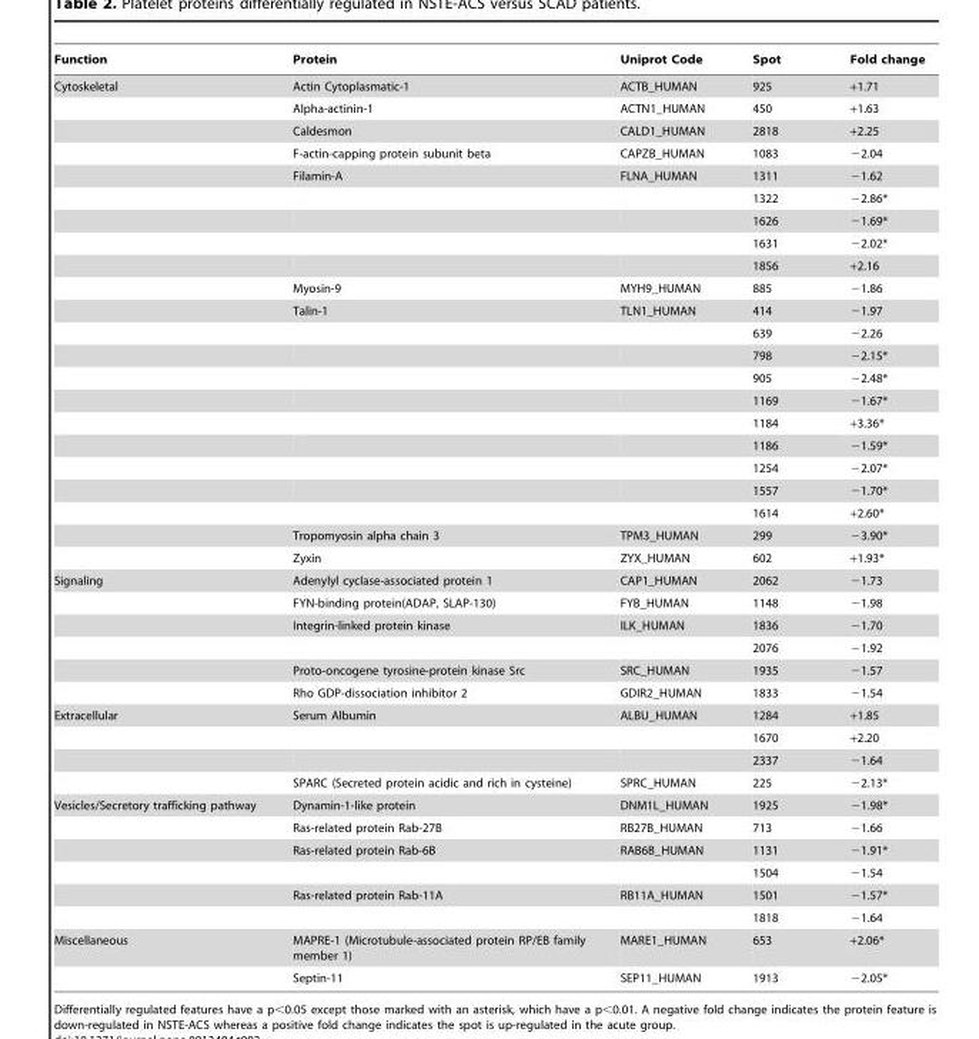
<table><thead><tr><td>Function</td><td>Protein</td><td>Uniprot Code</td><td>Spot</td><td>Fold change</td></tr></thead><tbody><tr><td rowspan="22">Cytoskeletal</td><td>Actin Cytoplasmatic-1</td><td>ACTB_HUMAN</td><td>925</td><td>+1.71</td></tr><tr><td>Alpha-actinin-1</td><td>ACTN1_HUMAN</td><td>450</td><td>+1.63</td></tr><tr><td>Caldesmon</td><td>CALD1_HUMAN</td><td>2818</td><td>+2.25</td></tr><tr><td>F-actin-capping protein subunit beta</td><td>CAPZB_HUMAN</td><td>1083</td><td>−2.04</td></tr><tr><td>Filamin-A</td><td>FLNA_HUMAN</td><td>1311</td><td>−1.62</td></tr><tr><td></td><td></td><td>1322</td><td>−2.86*</td></tr><tr><td></td><td></td><td>1626</td><td>−1.69*</td></tr><tr><td></td><td></td><td>1631</td><td>−2.02*</td></tr><tr><td></td><td></td><td>1856</td><td>+2.16</td></tr><tr><td>Myosin-9</td><td>MYH9_HUMAN</td><td>885</td><td>−1.86</td></tr><tr><td>Talin-1</td><td>TLN1_HUMAN</td><td>414</td><td>−1.97</td></tr><tr><td></td><td></td><td>639</td><td>−2.26</td></tr><tr><td></td><td></td><td>798</td><td>−2.15*</td></tr><tr><td></td><td></td><td>905</td><td>−2.48*</td></tr><tr><td></td><td></td><td>1169</td><td>−1.67*</td></tr><tr><td></td><td></td><td>1184</td><td>+3.36*</td></tr><tr><td></td><td></td><td>1186</td><td>−1.59*</td></tr><tr><td></td><td></td><td>1254</td><td>−2.07*</td></tr><tr><td></td><td></td><td>1557</td><td>−1.70*</td></tr><tr><td></td><td></td><td>1614</td><td>+2.60*</td></tr><tr><td>Tropomyosin alpha chain 3</td><td>TPM3_HUMAN</td><td>299</td><td>−3.90*</td></tr><tr><td>Zyxin</td><td>ZYX_HUMAN</td><td>602</td><td>+1.93*</td></tr><tr><td rowspan="6">Signaling</td><td>Adenylyl cyclase-associated protein 1</td><td>CAP1_HUMAN</td><td>2062</td><td>−1.73</td></tr><tr><td>FYN-binding protein(ADAP, SLAP-130)</td><td>FYB_HUMAN</td><td>1148</td><td>−1.98</td></tr><tr><td>Integrin-linked protein kinase</td><td>ILK_HUMAN</td><td>1836</td><td>−1.70</td></tr><tr><td></td><td></td><td>2076</td><td>−1.92</td></tr><tr><td>Proto-oncogene tyrosine-protein kinase Src</td><td>SRC_HUMAN</td><td>1935</td><td>−1.57</td></tr><tr><td>Rho GDP-dissociation inhibitor 2</td><td>GDIR2_HUMAN</td><td>1833</td><td>−1.54</td></tr><tr><td rowspan="4">Extracellular</td><td>Serum Albumin</td><td>ALBU_HUMAN</td><td>1284</td><td>+1.85</td></tr><tr><td></td><td></td><td>1670</td><td>+2.20</td></tr><tr><td></td><td></td><td>2337</td><td>−1.64</td></tr><tr><td>SPARC (Secreted protein acidic and rich in cysteine)</td><td>SPRC_HUMAN</td><td>225</td><td>−2.13*</td></tr><tr><td rowspan="6">Vesicles/Secretory trafficking pathway</td><td>Dynamin-1-like protein</td><td>DNM1L_HUMAN</td><td>1925</td><td>−1.98*</td></tr><tr><td>Ras-related protein Rab-27B</td><td>RB27B_HUMAN</td><td>713</td><td>−1.66</td></tr><tr><td>Ras-related protein Rab-6B</td><td>RAB6B_HUMAN</td><td>1131</td><td>−1.91*</td></tr><tr><td></td><td></td><td>1504</td><td>−1.54</td></tr><tr><td>Ras-related protein Rab-11A</td><td>RB11A_HUMAN</td><td>1501</td><td>−1.57*</td></tr><tr><td></td><td></td><td>1818</td><td>−1.64</td></tr><tr><td rowspan="2">Miscellaneous</td><td>MAPRE-1 (Microtubule-associated protein RP/EB family member 1)</td><td>MARE1_HUMAN</td><td>653</td><td>+2.06*</td></tr><tr><td>Septin-11</td><td>SEP11_HUMAN</td><td>1913</td><td>−2.05*</td></tr></tbody></table>